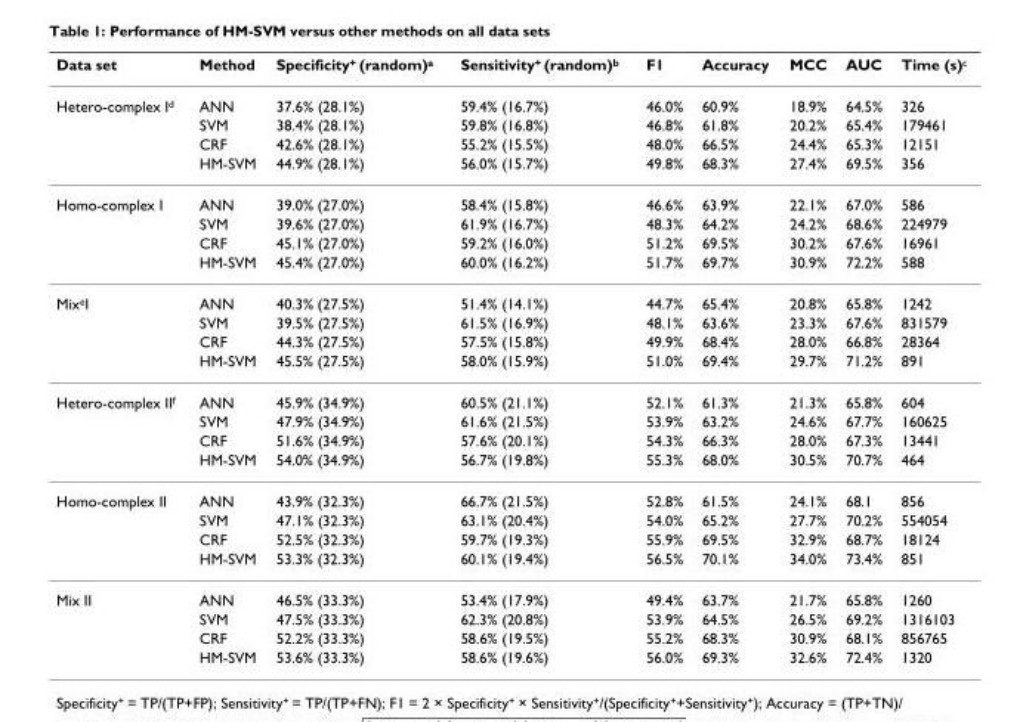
<table><thead><tr><td>Data set</td><td>Method</td><td>Specificity<sup>+</sup> (random)<sup>a</sup></td><td>Sensitivity<sup>+</sup> (random)<sup>b</sup></td><td>F1</td><td>Accuracy</td><td>MCC</td><td>AUC</td><td>Time (s)<sup>c</sup></td></tr></thead><tbody><tr><td rowspan="4">Hetero-complex I<sup>d</sup></td><td>ANN</td><td>37.6% (28.1%)</td><td>59.4% (16.7%)</td><td>46.0%</td><td>60.9%</td><td>18.9%</td><td>64.5%</td><td>326</td></tr><tr><td>SVM</td><td>38.4% (28.1%)</td><td>59.8% (16.8%)</td><td>46.8%</td><td>61.8%</td><td>20.2%</td><td>65.4%</td><td>179461</td></tr><tr><td>CRF</td><td>42.6% (28.1%)</td><td>55.2% (15.5%)</td><td>48.0%</td><td>66.5%</td><td>24.4%</td><td>65.3%</td><td>12151</td></tr><tr><td>HM-SVM</td><td>44.9% (28.1%)</td><td>56.0% (15.7%)</td><td>49.8%</td><td>68.3%</td><td>27.4%</td><td>69.5%</td><td>356</td></tr><tr><td rowspan="4">Homo-complex I</td><td>ANN</td><td>39.0% (27.0%)</td><td>58.4% (15.8%)</td><td>46.6%</td><td>63.9%</td><td>22.1%</td><td>67.0%</td><td>586</td></tr><tr><td>SVM</td><td>39.6% (27.0%)</td><td>61.9% (16.7%)</td><td>48.3%</td><td>64.2%</td><td>24.2%</td><td>68.6%</td><td>224979</td></tr><tr><td>CRF</td><td>45.1% (27.0%)</td><td>59.2% (16.0%)</td><td>51.2%</td><td>69.5%</td><td>30.2%</td><td>67.6%</td><td>16961</td></tr><tr><td>HM-SVM</td><td>45.4% (27.0%)</td><td>60.0% (16.2%)</td><td>51.7%</td><td>69.7%</td><td>30.9%</td><td>72.2%</td><td>588</td></tr><tr><td rowspan="4">Mix<sup>e</sup>I</td><td>ANN</td><td>40.3% (27.5%)</td><td>51.4% (14.1%)</td><td>44.7%</td><td>65.4%</td><td>20.8%</td><td>65.8%</td><td>1242</td></tr><tr><td>SVM</td><td>39.5% (27.5%)</td><td>61.5% (16.9%)</td><td>48.1%</td><td>63.6%</td><td>23.3%</td><td>67.6%</td><td>831579</td></tr><tr><td>CRF</td><td>44.3% (27.5%)</td><td>57.5% (15.8%)</td><td>49.9%</td><td>68.4%</td><td>28.0%</td><td>66.8%</td><td>28364</td></tr><tr><td>HM-SVM</td><td>45.5% (27.5%)</td><td>58.0% (15.9%)</td><td>51.0%</td><td>69.4%</td><td>29.7%</td><td>71.2%</td><td>891</td></tr><tr><td rowspan="4">Hetero-complex II<sup>f</sup></td><td>ANN</td><td>45.9% (34.9%)</td><td>60.5% (21.1%)</td><td>52.1%</td><td>61.3%</td><td>21.3%</td><td>65.8%</td><td>604</td></tr><tr><td>SVM</td><td>47.9% (34.9%)</td><td>61.6% (21.5%)</td><td>53.9%</td><td>63.2%</td><td>24.6%</td><td>67.7%</td><td>160625</td></tr><tr><td>CRF</td><td>51.6% (34.9%)</td><td>57.6% (20.1%)</td><td>54.3%</td><td>66.3%</td><td>28.0%</td><td>67.3%</td><td>13441</td></tr><tr><td>HM-SVM</td><td>54.0% (34.9%)</td><td>56.7% (19.8%)</td><td>55.3%</td><td>68.0%</td><td>30.5%</td><td>70.7%</td><td>464</td></tr><tr><td rowspan="4">Homo-complex II</td><td>ANN</td><td>43.9% (32.3%)</td><td>66.7% (21.5%)</td><td>52.8%</td><td>61.5%</td><td>24.1%</td><td>68.1</td><td>856</td></tr><tr><td>SVM</td><td>47.1% (32.3%)</td><td>63.1% (20.4%)</td><td>54.0%</td><td>65.2%</td><td>27.7%</td><td>70.2%</td><td>554054</td></tr><tr><td>CRF</td><td>52.5% (32.3%)</td><td>59.7% (19.3%)</td><td>55.9%</td><td>69.5%</td><td>32.9%</td><td>68.7%</td><td>18124</td></tr><tr><td>HM-SVM</td><td>53.3% (32.3%)</td><td>60.1% (19.4%)</td><td>56.5%</td><td>70.1%</td><td>34.0%</td><td>73.4%</td><td>851</td></tr><tr><td rowspan="4">Mix II</td><td>ANN</td><td>46.5% (33.3%)</td><td>53.4% (17.9%)</td><td>49.4%</td><td>63.7%</td><td>21.7%</td><td>65.8%</td><td>1260</td></tr><tr><td>SVM</td><td>47.5% (33.3%)</td><td>62.3% (20.8%)</td><td>53.9%</td><td>64.5%</td><td>26.5%</td><td>69.2%</td><td>1316103</td></tr><tr><td>CRF</td><td>52.2% (33.3%)</td><td>58.6% (19.5%)</td><td>55.2%</td><td>68.3%</td><td>30.9%</td><td>68.1%</td><td>856765</td></tr><tr><td>HM-SVM</td><td>53.6% (33.3%)</td><td>58.6% (19.6%)</td><td>56.0%</td><td>69.3%</td><td>32.6%</td><td>72.4%</td><td>1320</td></tr></tbody></table>